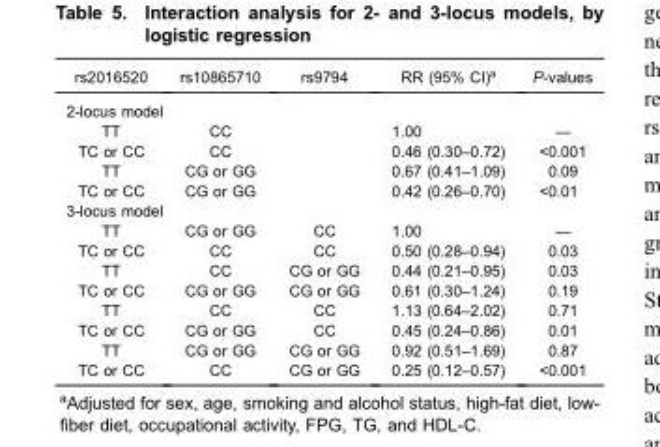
<table><thead><tr><td>rs2016520</td><td>rs10865710</td><td>rs9794</td><td>RR (95% CI)<sup>a</sup></td><td>P-values</td></tr></thead><tbody><tr><td colspan="5">2-locus model</td></tr><tr><td>TT</td><td>CC</td><td></td><td>1.00</td><td>—</td></tr><tr><td>TC or CC</td><td>CC</td><td></td><td>0.46 (0.30–0.72)</td><td>&lt;0.001</td></tr><tr><td>TT</td><td>CG or GG</td><td></td><td>0.67 (0.41–1.09)</td><td>0.09</td></tr><tr><td>TC or CC</td><td>CG or GG</td><td></td><td>0.42 (0.26–0.70)</td><td>&lt;0.01</td></tr><tr><td colspan="5">3-locus model</td></tr><tr><td>TT</td><td>CG or GG</td><td>CC</td><td>1.00</td><td>—</td></tr><tr><td>TC or CC</td><td>CC</td><td>CC</td><td>0.50 (0.28–0.94)</td><td>0.03</td></tr><tr><td>TT</td><td>CC</td><td>CG or GG</td><td>0.44 (0.21–0.95)</td><td>0.03</td></tr><tr><td>TC or CC</td><td>CG or GG</td><td>CG or GG</td><td>0.61 (0.30–1.24)</td><td>0.19</td></tr><tr><td>TT</td><td>CC</td><td>CC</td><td>1.13 (0.64–2.02)</td><td>0.71</td></tr><tr><td>TC or CC</td><td>CG or GG</td><td>CC</td><td>0.45 (0.24–0.86)</td><td>0.01</td></tr><tr><td>TT</td><td>CG or GG</td><td>CG or GG</td><td>0.92 (0.51–1.69)</td><td>0.87</td></tr><tr><td>TC or CC</td><td>CC</td><td>CG or GG</td><td>0.25 (0.12–0.57)</td><td>&lt;0.001</td></tr></tbody></table>